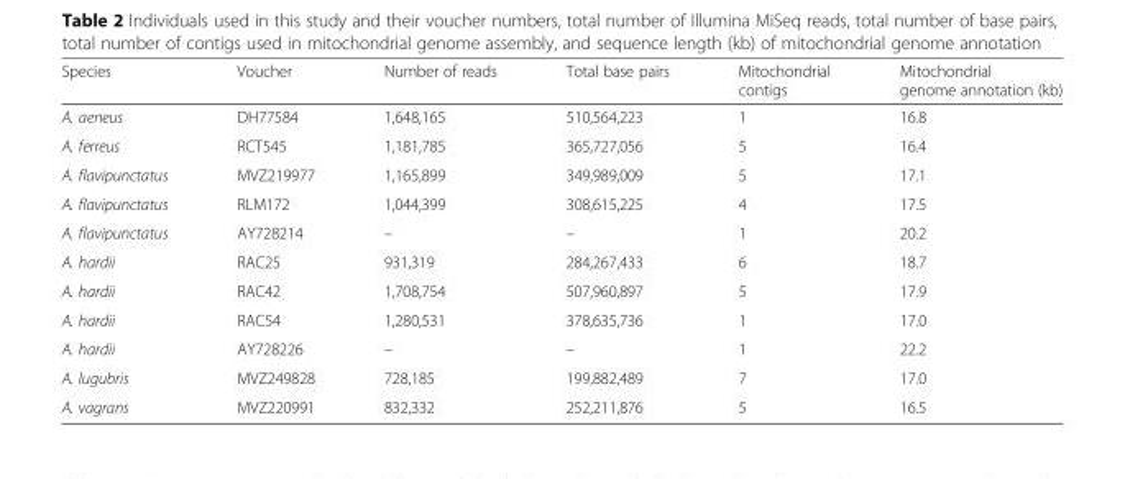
<table><thead><tr><td>Species</td><td>Voucher</td><td>Number of reads</td><td>Total base pairs</td><td>Mitochondrial contigs</td><td>Mitochondrial genome annotation (kb)</td></tr></thead><tbody><tr><td>A. aeneus</td><td>DH77584</td><td>1,648,165</td><td>510,564,223</td><td>1</td><td>16.8</td></tr><tr><td>A. ferreus</td><td>RCT545</td><td>1,181,785</td><td>365,727,056</td><td>5</td><td>16.4</td></tr><tr><td>A. flavipunctatus</td><td>MVZ219977</td><td>1,165,899</td><td>349,989,009</td><td>5</td><td>17.1</td></tr><tr><td>A. flavipunctatus</td><td>RLM172</td><td>1,044,399</td><td>308,615,225</td><td>4</td><td>17.5</td></tr><tr><td>A. flavipunctatus</td><td>AY728214</td><td>–</td><td>–</td><td>1</td><td>20.2</td></tr><tr><td>A. hardii</td><td>RAC25</td><td>931,319</td><td>284,267,433</td><td>6</td><td>18.7</td></tr><tr><td>A. hardii</td><td>RAC42</td><td>1,708,754</td><td>507,960,897</td><td>5</td><td>17.9</td></tr><tr><td>A. hardii</td><td>RAC54</td><td>1,280,531</td><td>378,635,736</td><td>1</td><td>17.0</td></tr><tr><td>A. hardii</td><td>AY728226</td><td>–</td><td>–</td><td>1</td><td>22.2</td></tr><tr><td>A. lugubris</td><td>MVZ249828</td><td>728,185</td><td>199,882,489</td><td>7</td><td>17.0</td></tr><tr><td>A. vagrans</td><td>MVZ220991</td><td>832,332</td><td>252,211,876</td><td>5</td><td>16.5</td></tr></tbody></table>